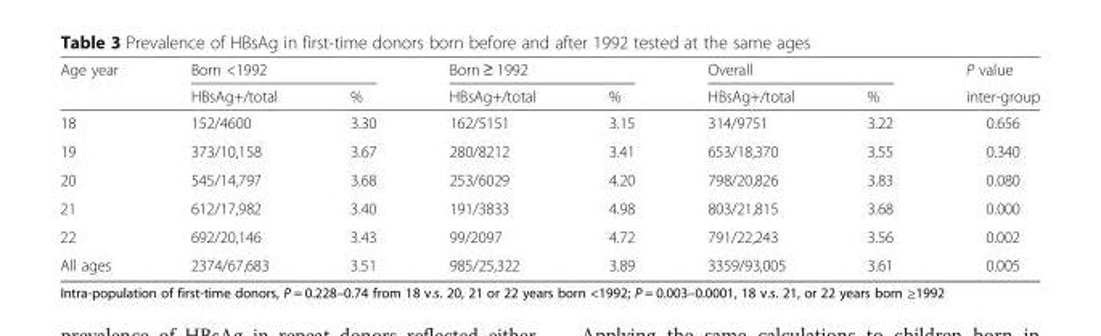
<table><thead><tr><td rowspan="2">Age year</td><td colspan="2">Born &lt;1992</td><td colspan="2">Born ≥ 1992</td><td colspan="2">Overall</td><td rowspan="2">P value inter-group</td></tr><tr><td>HBsAg+/total</td><td>%</td><td>HBsAg+/total</td><td>%</td><td>HBsAg+/total</td><td>%</td></tr></thead><tbody><tr><td>18</td><td>152/4600</td><td>3.30</td><td>162/5151</td><td>3.15</td><td>314/9751</td><td>3.22</td><td>0.656</td></tr><tr><td>19</td><td>373/10,158</td><td>3.67</td><td>280/8212</td><td>3.41</td><td>653/18,370</td><td>3.55</td><td>0.340</td></tr><tr><td>20</td><td>545/14,797</td><td>3.68</td><td>253/6029</td><td>4.20</td><td>798/20,826</td><td>3.83</td><td>0.080</td></tr><tr><td>21</td><td>612/17,982</td><td>3.40</td><td>191/3833</td><td>4.98</td><td>803/21,815</td><td>3.68</td><td>0.000</td></tr><tr><td>22</td><td>692/20,146</td><td>3.43</td><td>99/2097</td><td>4.72</td><td>791/22,243</td><td>3.56</td><td>0.002</td></tr><tr><td>All ages</td><td>2374/67,683</td><td>3.51</td><td>985/25,322</td><td>3.89</td><td>3359/93,005</td><td>3.61</td><td>0.005</td></tr></tbody></table>